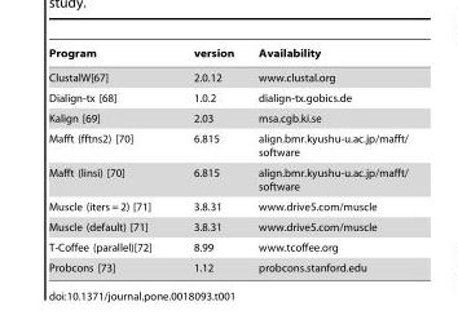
<table><thead><tr><td>Program</td><td>version</td><td>Availability</td></tr></thead><tbody><tr><td>ClustalW[67]</td><td>2.0.12</td><td>www.clustal.org</td></tr><tr><td>Dialign-tx [68]</td><td>1.0.2</td><td>dialign-tx.gobics.de</td></tr><tr><td>Kalign [69]</td><td>2.03</td><td>msa.cgb.ki.se</td></tr><tr><td>Mafft (fftns2) [70]</td><td>6.815</td><td>align.bmr.kyushu-u.ac.jp/mafft/ software</td></tr><tr><td>Mafft (linsi) [70]</td><td>6.815</td><td>align.bmr.kyushu-u.ac.jp/mafft/ software</td></tr><tr><td>Muscle (iters = 2) [71]</td><td>3.8.31</td><td>www.drive5.com/muscle</td></tr><tr><td>Muscle (default) [71]</td><td>3.8.31</td><td>www.drive5.com/muscle</td></tr><tr><td>T-Coffee (parallel)[72]</td><td>8.99</td><td>www.tcoffee.org</td></tr><tr><td>Probcons [73]</td><td>1.12</td><td>probcons.stanford.edu</td></tr></tbody></table>